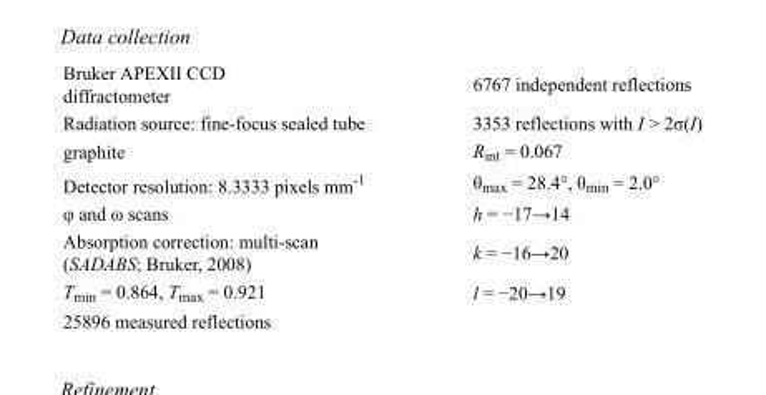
<table><tbody><tr><td>Bruker APEXII CCD diffractometer</td><td>6767 independent reflections</td></tr><tr><td>Radiation source: fine-focus sealed tube</td><td>3353 reflections with I &gt; 2σ(I)</td></tr><tr><td>graphite</td><td>R<sub>int</sub> = 0.067</td></tr><tr><td>Detector resolution: 8.3333 pixels mm<sup>-1</sup></td><td>θ<sub>max</sub> = 28.4°, θ<sub>min</sub> = 2.0°</td></tr><tr><td>φ and ω scans</td><td>h = −17→14</td></tr><tr><td>Absorption correction: multi-scan (SADABS; Bruker, 2008)</td><td>k = −16→20</td></tr><tr><td>T<sub>min</sub> = 0.864, T<sub>max</sub> = 0.921</td><td>l = −20→19</td></tr><tr><td>25896 measured reflections</td><td></td></tr></tbody></table>